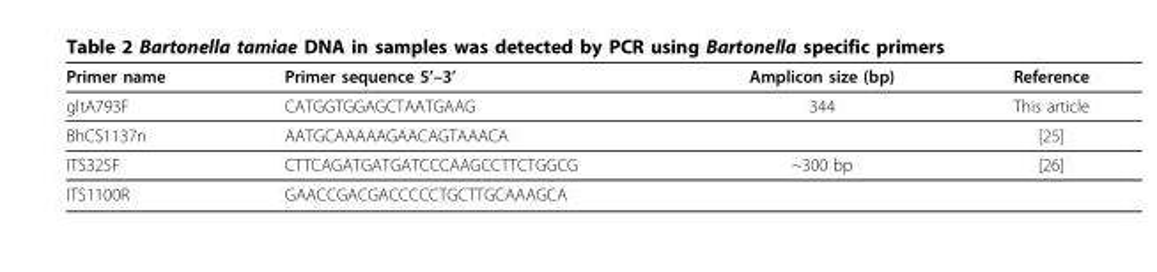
<table><thead><tr><td>Primer name</td><td>Primer sequence 5’–3’</td><td>Amplicon size (bp)</td><td>Reference</td></tr></thead><tbody><tr><td>gltA793F</td><td>CATGGTGGAGCTAATGAAG</td><td>344</td><td>This article</td></tr><tr><td>BhCS1137n</td><td>AATGCAAAAAGAACAGTAAACA</td><td></td><td>[25]</td></tr><tr><td>ITS325F</td><td>CTTCAGATGATGATCCCAAGCCTTCTGGCG</td><td>~300 bp</td><td>[26]</td></tr><tr><td>ITS1100R</td><td>GAACCGACGACCCCCTGCTTGCAAAGCA</td><td></td><td></td></tr></tbody></table>